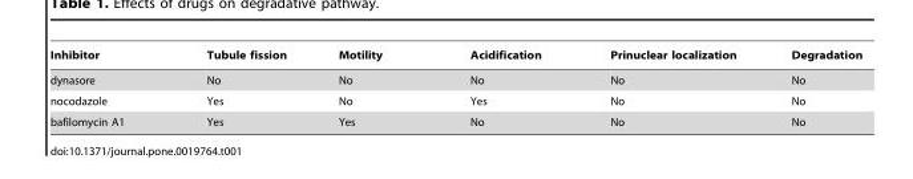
<table><thead><tr><td>Inhibitor</td><td>Tubule fission</td><td>Motility</td><td>Acidification</td><td>Prinuclear localization</td><td>Degradation</td></tr></thead><tbody><tr><td>dynasore</td><td>No</td><td>No</td><td>No</td><td>No</td><td>No</td></tr><tr><td>nocodazole</td><td>Yes</td><td>No</td><td>Yes</td><td>No</td><td>No</td></tr><tr><td>bafilomycin A1</td><td>Yes</td><td>Yes</td><td>No</td><td>No</td><td>No</td></tr></tbody></table>